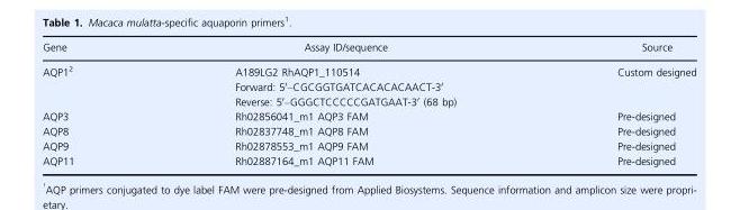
<table><thead><tr><td>Gene</td><td>Assay ID/sequence</td><td>Source</td></tr></thead><tbody><tr><td>AQP12</td><td>A189LG2 RhAQP1_110514 Forward: 5′–CGCGGTGATCACACACAACT-3′ Reverse: 5′–GGGCTCCCCCGATGAAT-3′ (68 bp)</td><td>Custom designed</td></tr><tr><td>AQP3</td><td>Rh02856041_m1 AQP3 FAM</td><td>Pre-designed</td></tr><tr><td>AQP8</td><td>Rh02837748_m1 AQP8 FAM</td><td>Pre-designed</td></tr><tr><td>AQP9</td><td>Rh02878553_m1 AQP9 FAM</td><td>Pre-designed</td></tr><tr><td>AQP11</td><td>Rh02887164_m1 AQP11 FAM</td><td>Pre-designed</td></tr></tbody></table>